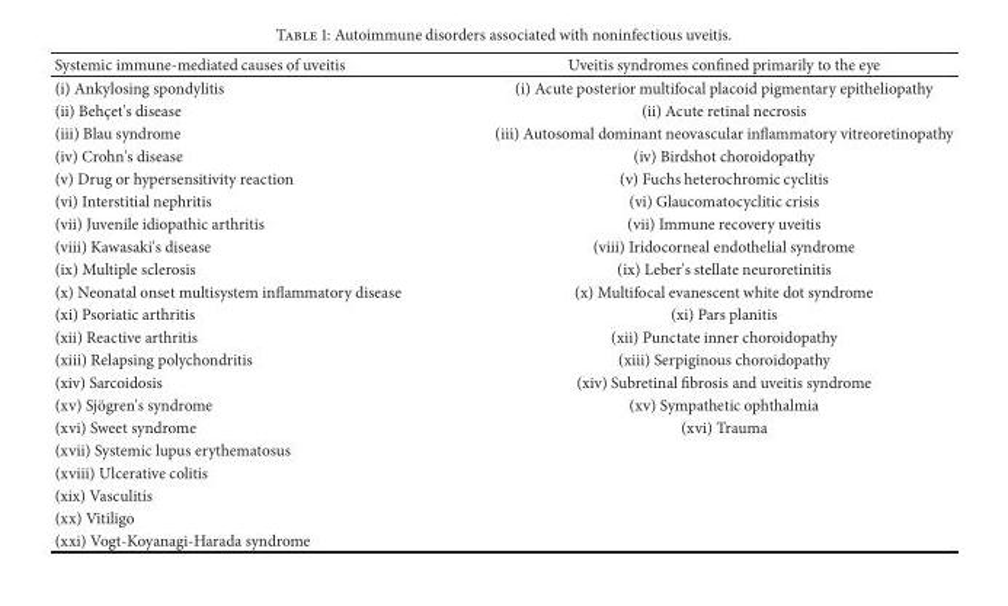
<table><thead><tr><td>Systemic immune-mediated causes of uveitis</td><td>Uveitis syndromes confined primarily to the eye</td></tr></thead><tbody><tr><td>(i) Ankylosing spondylitis</td><td>(i) Acute posterior multifocal placoid pigmentary epitheliopathy</td></tr><tr><td>(ii) Behc¸et&#x27;s disease</td><td>(ii) Acute retinal necrosis</td></tr><tr><td>(iii) Blau syndrome</td><td>(iii) Autosomal dominant neovascular inflammatory vitreoretinopathy</td></tr><tr><td>(iv) Crohn&#x27;s disease</td><td>(iv) Birdshot choroidopathy</td></tr><tr><td>(v) Drug or hypersensitivity reaction</td><td>(v) Fuchs heterochromic cyclitis</td></tr><tr><td>(vi) Interstitial nephritis</td><td>(vi) Glaucomatocyclitic crisis</td></tr><tr><td>(vii) Juvenile idiopathic arthritis</td><td>(vii) Immune recovery uveitis</td></tr><tr><td>(viii) Kawasaki&#x27;s disease</td><td>(viii) Iridocorneal endothelial syndrome</td></tr><tr><td>(ix) Multiple sclerosis</td><td>(ix) Leber&#x27;s stellate neuroretinitis</td></tr><tr><td>(x) Neonatal onset multisystem inflammatory disease</td><td>(x) Multifocal evanescent white dot syndrome</td></tr><tr><td>(xi) Psoriatic arthritis</td><td>(xi) Pars planitis</td></tr><tr><td>(xii) Reactive arthritis</td><td>(xii) Punctate inner choroidopathy</td></tr><tr><td>(xiii) Relapsing polychondritis</td><td>(xiii) Serpiginous choroidopathy</td></tr><tr><td>(xiv) Sarcoidosis</td><td>(xiv) Subretinal fibrosis and uveitis syndrome</td></tr><tr><td>(xv) Sj¨ogren&#x27;s syndrome</td><td>(xv) Sympathetic ophthalmia</td></tr><tr><td>(xvi) Sweet syndrome</td><td>(xvi) Trauma</td></tr><tr><td colspan="2">(xvii) Systemic lupus erythematosus</td></tr><tr><td colspan="2">(xviii) Ulcerative colitis</td></tr><tr><td colspan="2">(xix) Vasculitis</td></tr><tr><td colspan="2">(xx) Vitiligo</td></tr><tr><td>(xxi) Vogt-Koyanagi-Harada syndrome</td><td></td></tr></tbody></table>